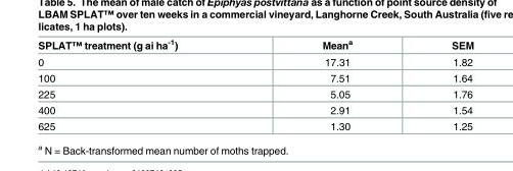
<table><thead><tr><td>SPLAT<sup>™</sup> treatment (g ai ha<sup>-1</sup>)</td><td>Mean<sup>a</sup></td><td>SEM</td></tr></thead><tbody><tr><td>0</td><td>17.31</td><td>1.82</td></tr><tr><td>100</td><td>7.51</td><td>1.64</td></tr><tr><td>225</td><td>5.05</td><td>1.76</td></tr><tr><td>400</td><td>2.91</td><td>1.54</td></tr><tr><td>625</td><td>1.30</td><td>1.25</td></tr></tbody></table>